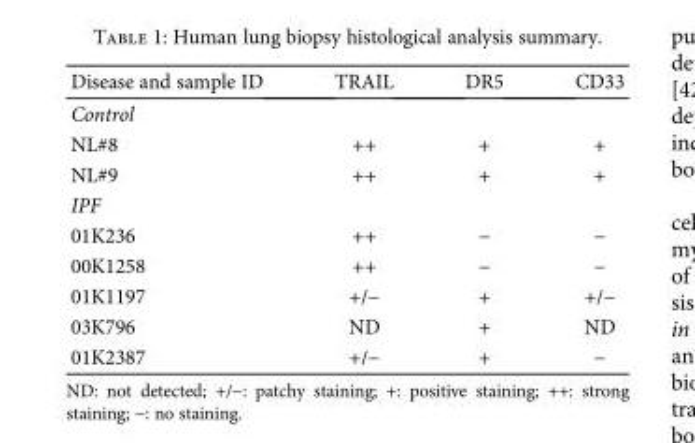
<table><thead><tr><td>Disease and sample ID</td><td>TRAIL</td><td>DR5</td><td>CD33</td></tr></thead><tbody><tr><td colspan="4">Control</td></tr><tr><td>NL#8</td><td>++</td><td>+</td><td>+</td></tr><tr><td>NL#9</td><td>++</td><td>+</td><td>+</td></tr><tr><td colspan="4">IPF</td></tr><tr><td>01K236</td><td>++</td><td>−</td><td>−</td></tr><tr><td>00K1258</td><td>++</td><td>−</td><td>−</td></tr><tr><td>01K1197</td><td>+/−</td><td>+</td><td>+/−</td></tr><tr><td>03K796</td><td>ND</td><td>+</td><td>ND</td></tr><tr><td>01K2387</td><td>+/−</td><td>+</td><td>−</td></tr></tbody></table>